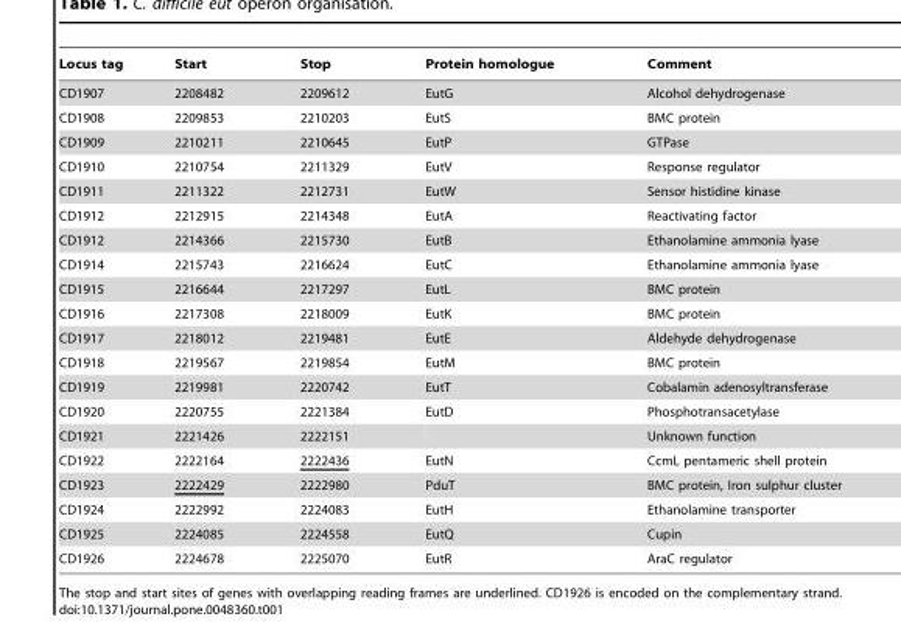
<table><thead><tr><td>Locus tag</td><td>Start</td><td>Stop</td><td>Protein homologue</td><td>Comment</td></tr></thead><tbody><tr><td>CD1907</td><td>2208482</td><td>2209612</td><td>EutG</td><td>Alcohol dehydrogenase</td></tr><tr><td>CD1908</td><td>2209853</td><td>2210203</td><td>EutS</td><td>BMC protein</td></tr><tr><td>CD1909</td><td>2210211</td><td>2210645</td><td>EutP</td><td>GTPase</td></tr><tr><td>CD1910</td><td>2210754</td><td>2211329</td><td>EutV</td><td>Response regulator</td></tr><tr><td>CD1911</td><td>2211322</td><td>2212731</td><td>EutW</td><td>Sensor histidine kinase</td></tr><tr><td>CD1912</td><td>2212915</td><td>2214348</td><td>EutA</td><td>Reactivating factor</td></tr><tr><td>CD1912</td><td>2214366</td><td>2215730</td><td>EutB</td><td>Ethanolamine ammonia lyase</td></tr><tr><td>CD1914</td><td>2215743</td><td>2216624</td><td>EutC</td><td>Ethanolamine ammonia lyase</td></tr><tr><td>CD1915</td><td>2216644</td><td>2217297</td><td>EutL</td><td>BMC protein</td></tr><tr><td>CD1916</td><td>2217308</td><td>2218009</td><td>EutK</td><td>BMC protein</td></tr><tr><td>CD1917</td><td>2218012</td><td>2219481</td><td>EutE</td><td>Aldehyde dehydrogenase</td></tr><tr><td>CD1918</td><td>2219567</td><td>2219854</td><td>EutM</td><td>BMC protein</td></tr><tr><td>CD1919</td><td>2219981</td><td>2220742</td><td>EutT</td><td>Cobalamin adenosyltransferase</td></tr><tr><td>CD1920</td><td>2220755</td><td>2221384</td><td>EutD</td><td>Phosphotransacetylase</td></tr><tr><td>CD1921</td><td>2221426</td><td>2222151</td><td></td><td>Unknown function</td></tr><tr><td>CD1922</td><td>2222164</td><td>2222436</td><td>EutN</td><td>CcmL pentameric shell protein</td></tr><tr><td>CD1923</td><td>2222429</td><td>2222980</td><td>PduT</td><td>BMC protein, Iron sulphur cluster</td></tr><tr><td>CD1924</td><td>2222992</td><td>2224083</td><td>EutH</td><td>Ethanolamine transporter</td></tr><tr><td>CD1925</td><td>2224085</td><td>2224558</td><td>EutQ</td><td>Cupin</td></tr><tr><td>CD1926</td><td>2224678</td><td>2225070</td><td>EutR</td><td>AraC regulator</td></tr></tbody></table>